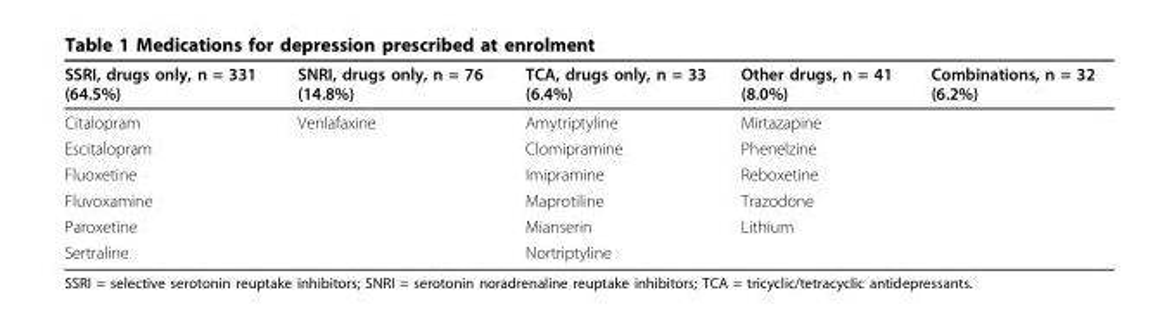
<table><thead><tr><td>SSRI, drugs only, n = 331 (64.5%)</td><td>SNRI, drugs only, n = 76 (14.8%)</td><td>TCA, drugs only, n = 33 (6.4%)</td><td>Other drugs, n = 41 (8.0%)</td><td>Combinations, n = 32 (6.2%)</td></tr></thead><tbody><tr><td>Citalopram</td><td>Venlafaxine</td><td>Amytriptyline</td><td>Mirtazapine</td><td></td></tr><tr><td>Escitalopram</td><td></td><td>Clomipramine</td><td>Phenelzine</td><td></td></tr><tr><td>Fluoxetine</td><td></td><td>Imipramine</td><td>Reboxetine</td><td></td></tr><tr><td>Fluvoxamine</td><td></td><td>Maprotiline</td><td>Trazodone</td><td></td></tr><tr><td>Paroxetine</td><td></td><td>Mianserin</td><td>Lithium</td><td></td></tr><tr><td>Sertraline</td><td></td><td>Nortriptyline</td><td></td><td></td></tr></tbody></table>